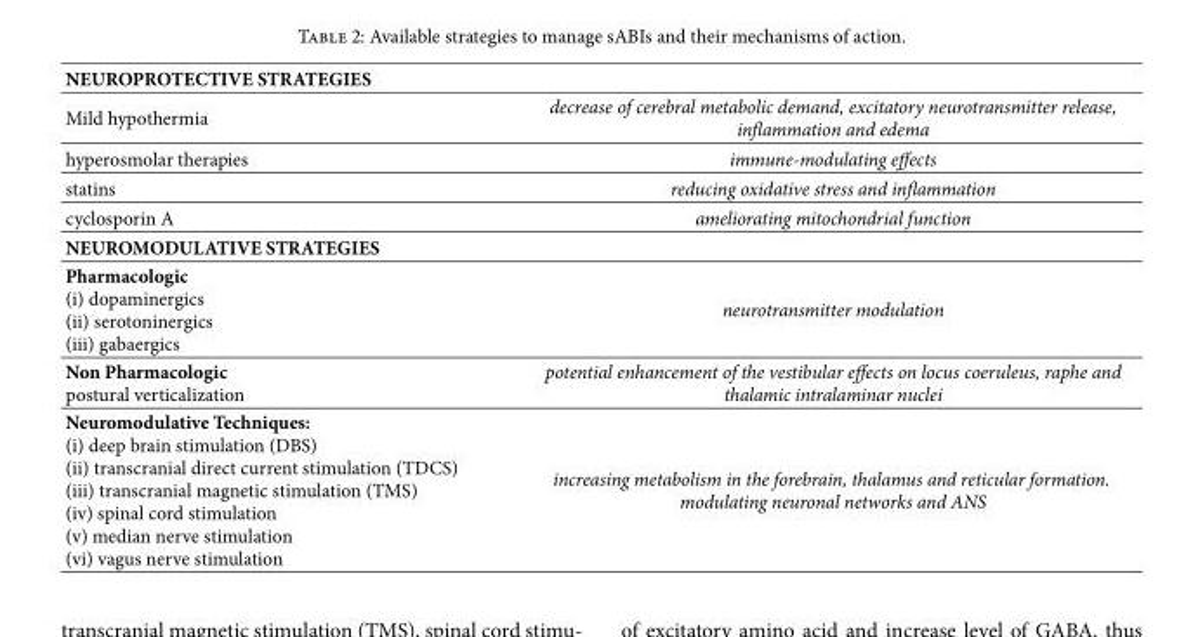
<table><tbody><tr><td colspan="2">NEUROPROTECTIVE STRATEGIES</td></tr><tr><td>Mild hypothermia</td><td>decrease of cerebral metabolic demand, excitatory neurotransmitter release, inflammation and edema</td></tr><tr><td>hyperosmolar therapies</td><td>immune-modulating effects</td></tr><tr><td>statins</td><td>reducing oxidative stress and inflammation</td></tr><tr><td>cyclosporin A</td><td>ameliorating mitochondrial function</td></tr><tr><td colspan="2">NEUROMODULATIVE STRATEGIES</td></tr><tr><td>Pharmacologic (i) dopaminergics (ii) serotoninergics (iii) gabaergics</td><td>neurotransmitter modulation</td></tr><tr><td>Non Pharmacologic postural verticalization</td><td>potential enhancement of the vestibular effects on locus coeruleus, raphe and thalamic intralaminar nuclei</td></tr><tr><td>Neuromodulative Techniques: (i) deep brain stimulation (DBS) (ii) transcranial direct current stimulation (TDCS) (iii) transcranial magnetic stimulation (TMS) (iv) spinal cord stimulation (v) median nerve stimulation (vi) vagus nerve stimulation</td><td>increasing metabolism in the forebrain, thalamus and reticular formation. modulating neuronal networks and ANS</td></tr></tbody></table>